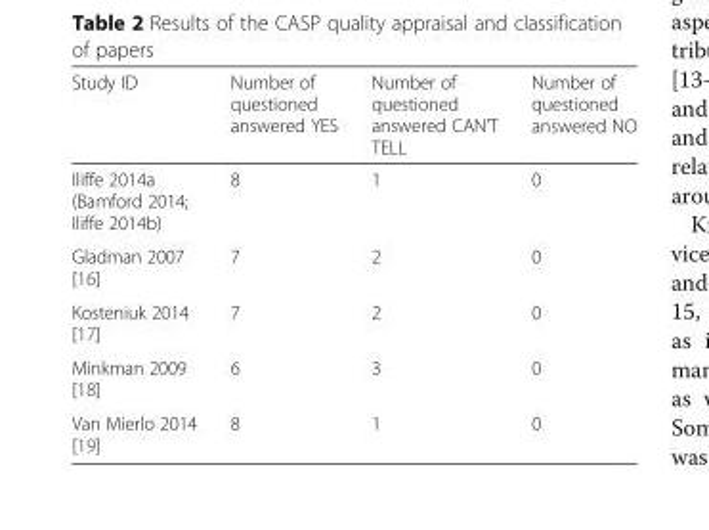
<table><thead><tr><td>Study ID</td><td>Number of questioned answered YES</td><td>Number of questioned answered CAN’T TELL</td><td>Number of questioned answered NO</td></tr></thead><tbody><tr><td>Iliffe 2014a (Bamford 2014; Iliffe 2014b)</td><td>8</td><td>1</td><td>0</td></tr><tr><td>Gladman 2007 [16]</td><td>7</td><td>2</td><td>0</td></tr><tr><td>Kosteniuk 2014 [17]</td><td>7</td><td>2</td><td>0</td></tr><tr><td>Minkman 2009 [18]</td><td>6</td><td>3</td><td>0</td></tr><tr><td>Van Mierlo 2014 [19]</td><td>8</td><td>1</td><td>0</td></tr></tbody></table>